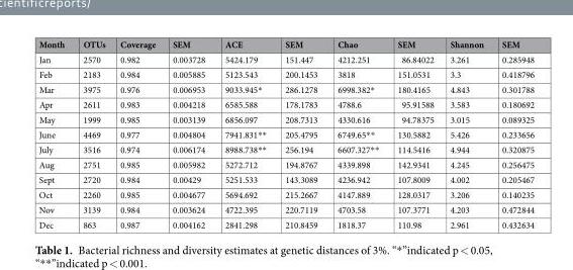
<table><thead><tr><td>Month</td><td>OTUs</td><td>Coverage</td><td>SEM</td><td>ACE</td><td>SEM</td><td>Chao</td><td>SEM</td><td>Shannon</td><td>SEM</td></tr></thead><tbody><tr><td>Jan</td><td>2570</td><td>0.982</td><td>0.003728</td><td>5424.179</td><td>151.447</td><td>4212.251</td><td>86.84022</td><td>3.261</td><td>0.285948</td></tr><tr><td>Feb</td><td>2183</td><td>0.984</td><td>0.005885</td><td>5123.543</td><td>200.1453</td><td>3818</td><td>151.0531</td><td>3.3</td><td>0.418796</td></tr><tr><td>Mar</td><td>3975</td><td>0.976</td><td>0.006953</td><td>9033.945*</td><td>286.1278</td><td>6998.382*</td><td>180.4165</td><td>4.843</td><td>0.301788</td></tr><tr><td>Apr</td><td>2611</td><td>0.983</td><td>0.004218</td><td>6585.588</td><td>178.1783</td><td>4788.6</td><td>95.91588</td><td>3.583</td><td>0.180692</td></tr><tr><td>May</td><td>1999</td><td>0.985</td><td>0.003139</td><td>6856.097</td><td>208.7313</td><td>4330.616</td><td>94.78375</td><td>3.015</td><td>0.089325</td></tr><tr><td>June</td><td>4469</td><td>0.977</td><td>0.004804</td><td>7941.831**</td><td>205.4795</td><td>6749.65**</td><td>130.5882</td><td>5.426</td><td>0.233656</td></tr><tr><td>July</td><td>3516</td><td>0.974</td><td>0.006174</td><td>8988.738**</td><td>256.194</td><td>6607.327**</td><td>114.5416</td><td>4.944</td><td>0.320875</td></tr><tr><td>Aug</td><td>2751</td><td>0.985</td><td>0.005982</td><td>5272.712</td><td>194.8767</td><td>4339.898</td><td>142.9341</td><td>4.245</td><td>0.256475</td></tr><tr><td>Sept</td><td>2720</td><td>0.984</td><td>0.00429</td><td>5251.533</td><td>143.3089</td><td>4236.942</td><td>107.8009</td><td>4.002</td><td>0.205467</td></tr><tr><td>Oct</td><td>2260</td><td>0.985</td><td>0.004677</td><td>5694.692</td><td>215.2667</td><td>4147.889</td><td>128.0317</td><td>3.206</td><td>0.140235</td></tr><tr><td>Nov</td><td>3139</td><td>0.984</td><td>0.003624</td><td>4722.395</td><td>220.7119</td><td>4703.58</td><td>107.3771</td><td>4.203</td><td>0.472844</td></tr><tr><td>Dec</td><td>863</td><td>0.987</td><td>0.004162</td><td>2841.298</td><td>210.8459</td><td>1818.37</td><td>110.98</td><td>2.961</td><td>0.432634</td></tr></tbody></table>